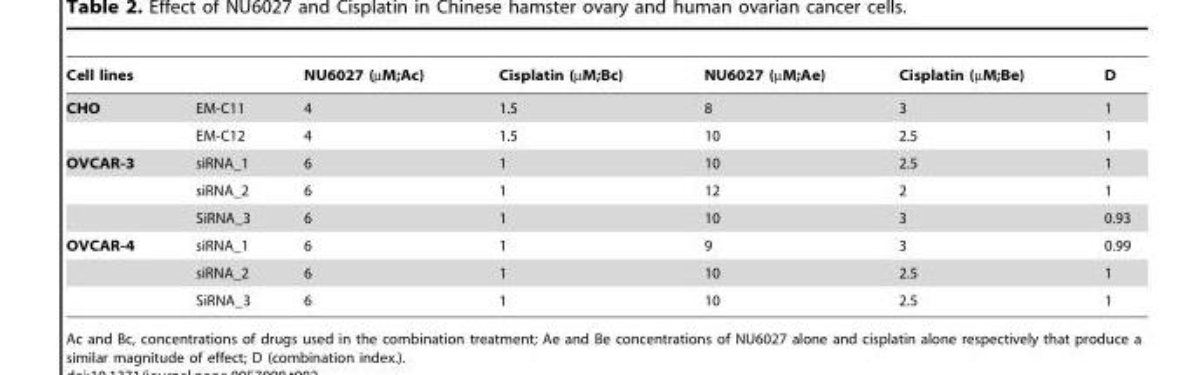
<table><thead><tr><td colspan="2">Cell lines</td><td rowspan="2">NU6027 (µM;Ac) 4</td><td rowspan="2">Cisplatin (µM;Bc) 1.5</td><td rowspan="2">NU6027 (µM;Ae) 8</td><td rowspan="2">Cisplatin (µM;Be) 3</td><td rowspan="2">D 1</td></tr><tr><td>CHO</td><td>EM-C11</td></tr></thead><tbody><tr><td></td><td>EM-C12</td><td>4</td><td>1.5</td><td>10</td><td>2.5</td><td>1</td></tr><tr><td rowspan="3">OVCAR-3</td><td>siRNA_1</td><td>6</td><td>1</td><td>10</td><td>2.5</td><td>1</td></tr><tr><td>siRNA_2</td><td>6</td><td>1</td><td>12</td><td>2</td><td>1</td></tr><tr><td>SiRNA_3</td><td>6</td><td>1</td><td>10</td><td>3</td><td>0.93</td></tr><tr><td rowspan="3">OVCAR-4</td><td>siRNA_1</td><td>6</td><td>1</td><td>9</td><td>3</td><td>0.99</td></tr><tr><td>siRNA_2</td><td>6</td><td>1</td><td>10</td><td>2.5</td><td>1</td></tr><tr><td>SiRNA_3</td><td>6</td><td>1</td><td>10</td><td>2.5</td><td>1</td></tr></tbody></table>